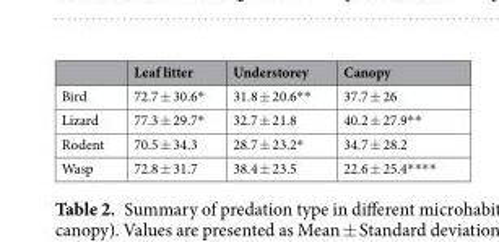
<table><thead><tr><td></td><td>Leaf litter</td><td>Understorey</td><td>Canopy</td></tr></thead><tbody><tr><td>Bird</td><td>72.7 ± 30.6*</td><td>31.8 ± 20.6**</td><td>37.7 ± 26</td></tr><tr><td>Lizard</td><td>77.3 ± 29.7*</td><td>32.7 ± 21.8</td><td>40.2 ± 27.9**</td></tr><tr><td>Rodent</td><td>70.5 ± 34.3</td><td>28.7 ± 23.2*</td><td>34.7 ± 28.2</td></tr><tr><td>Wasp</td><td>72.8 ± 31.7</td><td>38.4 ± 23.5</td><td>22.6 ± 25.4****</td></tr></tbody></table>